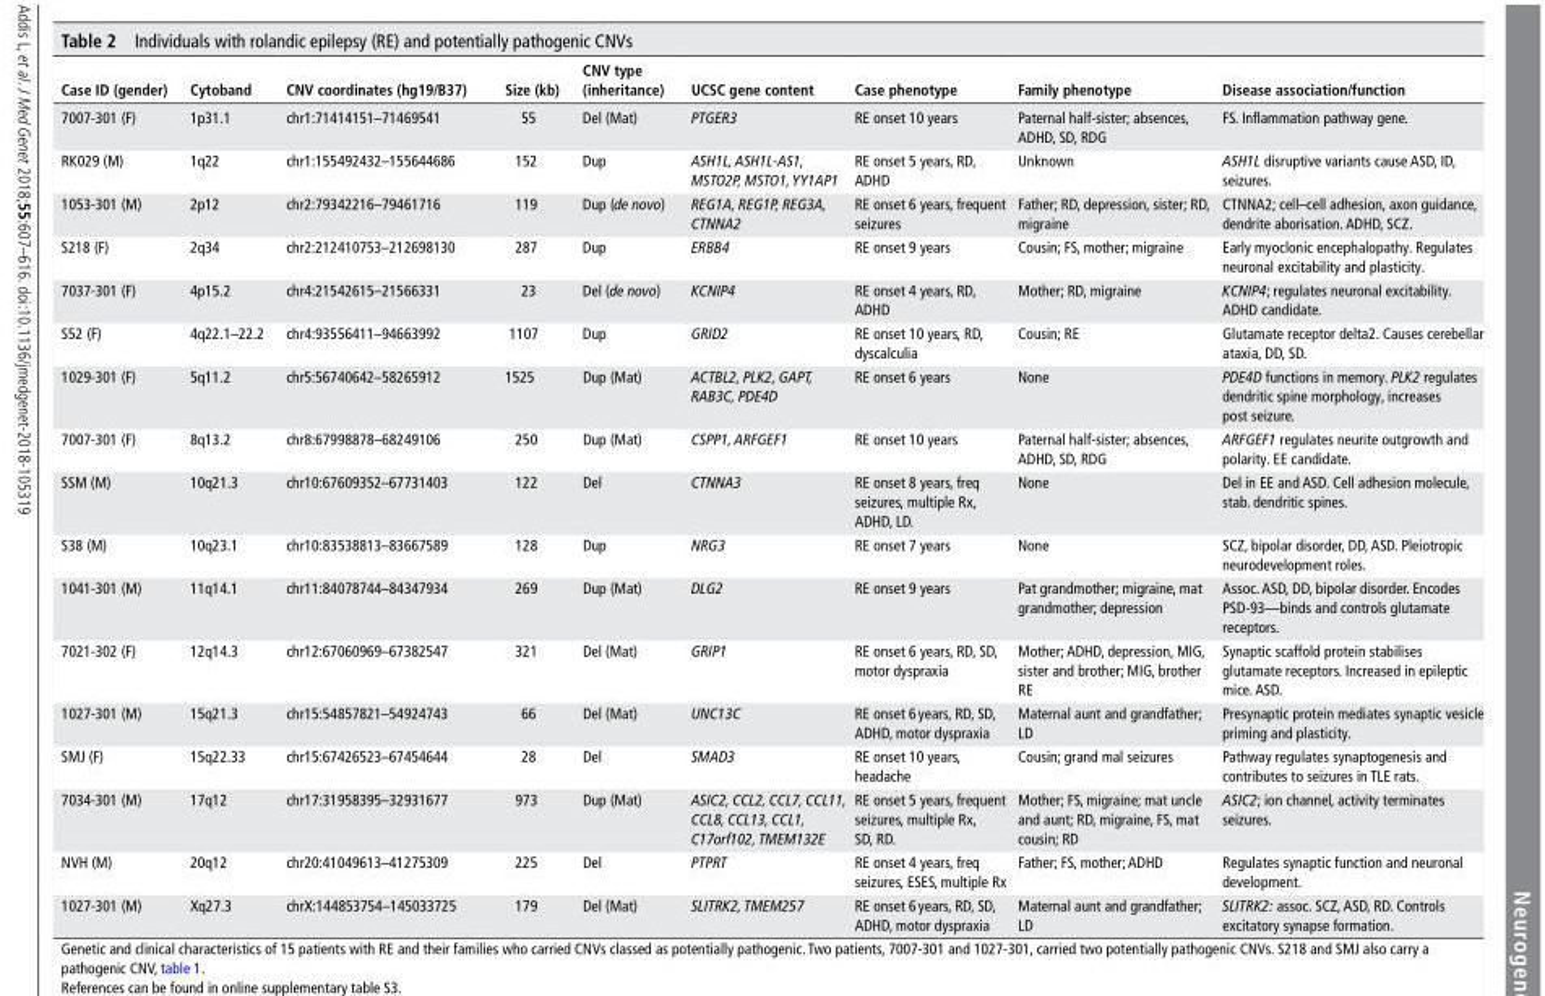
<table><thead><tr><td>Case Id (gender)</td><td>Cytoband</td><td>CNV coordinates (hg19/b37)</td><td>size (kb)</td><td>CNV type (inheritance)</td><td>uCsC gene content</td><td>Case phenotype</td><td>Family phenotype</td><td>disease association/function</td></tr></thead><tbody><tr><td>7007-301 (F)</td><td>1p31.1</td><td>chr1:71414151–71469541</td><td>55</td><td>Del (Mat)</td><td>PTGER3</td><td>RE onset 10 years</td><td>Paternal half-sister; absences, ADHD, SD, RDG</td><td>FS. Inflammation pathway gene.</td></tr><tr><td>RK029 (M)</td><td>1q22</td><td>chr1:155492432–155644686</td><td>152</td><td>Dup</td><td>ASH1L, ASH1L-AS1, MSTO2P, MSTO1, YY1AP1</td><td>RE onset 5 years, RD, ADHD</td><td>Unknown</td><td>ASH1L disruptive variants cause ASD, ID, seizures.</td></tr><tr><td>1053-301 (M)</td><td>2p12</td><td>chr2:79342216–79461716</td><td>119</td><td>Dup (de novo)</td><td>REG1A, REG1P, REG3A, CTNNA2</td><td>RE onset 6 years, frequent seizures</td><td>Father; RD, depression, sister; RD, migraine</td><td>CTNNA2; cell–cell adhesion, axon guidance, dendrite aborisation. ADHD, SCZ.</td></tr><tr><td>S218 (F)</td><td>2q34</td><td>chr2:212410753–212698130</td><td>287</td><td>Dup</td><td>ERBB4</td><td>RE onset 9 years</td><td>Cousin; FS, mother; migraine</td><td>Early myoclonic encephalopathy. Regulates neuronal excitability and plasticity.</td></tr><tr><td>7037-301 (F)</td><td>4p15.2</td><td>chr4:21542615–21566331</td><td>23</td><td>Del (de novo)</td><td>KCNIP4</td><td>RE onset 4 years, RD, ADHD</td><td>Mother; RD, migraine</td><td>KCNIP4; regulates neuronal excitability. ADHD candidate.</td></tr><tr><td>S52 (F)</td><td>4q22.1–22.2</td><td>chr4:93556411–94663992</td><td>1107</td><td>Dup</td><td>GRID2</td><td>RE onset 10 years, RD, dyscalculia</td><td>Cousin; RE</td><td>Glutamate receptor delta2. Causes cerebellar ataxia, DD, SD.</td></tr><tr><td>1029-301 (F)</td><td>5q11.2</td><td>chr5:56740642–58265912</td><td>1525</td><td>Dup (Mat)</td><td>ACTBL2, PLK2, GAPT, RAB3C, PDE4D</td><td>RE onset 6 years</td><td>None</td><td>PDE4D functions in memory. PLK2 regulates dendritic spine morphology, increases post seizure.</td></tr><tr><td>7007-301 (F)</td><td>8q13.2</td><td>chr8:67998878–68249106</td><td>250</td><td>Dup (Mat)</td><td>CSPP1, ARFGEF1</td><td>RE onset 10 years</td><td>Paternal half-sister; absences, ADHD, SD, RDG</td><td>ARFGEF1 regulates neurite outgrowth and polarity. EE candidate.</td></tr><tr><td>SSM (M)</td><td>10q21.3</td><td>chr10:67609352–67731403</td><td>122</td><td>Del</td><td>CTNNA3</td><td>RE onset 8 years, freq seizures, multiple Rx, ADHD, LD.</td><td>None</td><td>Del in EE and ASD. Cell adhesion molecule, stab. dendritic spines.</td></tr><tr><td>S38 (M)</td><td>10q23.1</td><td>chr10:83538813–83667589</td><td>128</td><td>Dup</td><td>NRG3</td><td>RE onset 7 years</td><td>None</td><td>SCZ, bipolar disorder, DD, ASD. Pleiotropic neurodevelopment roles.</td></tr><tr><td>1041-301 (M)</td><td>11q14.1</td><td>chr11:84078744–84347934</td><td>269</td><td>Dup (Mat)</td><td>DLG2</td><td>RE onset 9 years</td><td>Pat grandmother; migraine, mat grandmother; depression</td><td>Assoc. ASD, DD, bipolar disorder. Encodes PSD-93—binds and controls glutamate receptors.</td></tr><tr><td>7021-302 (F)</td><td>12q14.3</td><td>chr12:67060969–67382547</td><td>321</td><td>Del (Mat)</td><td>GRIP1</td><td>RE onset 6 years, RD, SD, motor dyspraxia</td><td>Mother; ADHD, depression, MIG, sister and brother; MIG, brother RE</td><td>Synaptic scaffold protein stabilises glutamate receptors. Increased in epileptic mice. ASD.</td></tr><tr><td>1027-301 (M)</td><td>15q21.3</td><td>chr15:54857821–54924743</td><td>66</td><td>Del (Mat)</td><td>UNC13C</td><td>RE onset 6 years, RD, SD, ADHD, motor dyspraxia</td><td>Maternal aunt and grandfather; LD</td><td>Presynaptic protein mediates synaptic vesicle priming and plasticity.</td></tr><tr><td>SMJ (F)</td><td>15q22.33</td><td>chr15:67426523–67454644</td><td>28</td><td>Del</td><td>SMAD3</td><td>RE onset 10 years, headache</td><td>Cousin; grand mal seizures</td><td>Pathway regulates synaptogenesis and contributes to seizures in TLE rats.</td></tr><tr><td>7034-301 (M)</td><td>17q12</td><td>chr17:31958395–32931677</td><td>973</td><td>Dup (Mat)</td><td>ASIC2, CCL2, CCL7, CCL11, CCL8, CCL13, CCL1, C17orf102, TMEM132E</td><td>RE onset 5 years, frequent seizures, multiple Rx, SD, RD.</td><td>Mother; FS, migraine; mat uncle and aunt; RD, migraine, FS, mat cousin; RD</td><td>ASIC2; ion channel, activity terminates seizures.</td></tr><tr><td>NVH (M)</td><td>20q12</td><td>chr20:41049613–41275309</td><td>225</td><td>Del</td><td>PTPRT</td><td>RE onset 4 years, freq seizures, ESES, multiple Rx</td><td>Father; FS, mother; ADHD</td><td>Regulates synaptic function and neuronal development.</td></tr><tr><td>1027-301 (M)</td><td>Xq27.3</td><td>chrX:144853754–145033725</td><td>179</td><td>Del (Mat)</td><td>SLITRK2, TMEM257</td><td>RE onset 6 years, RD, SD, ADHD, motor dyspraxia</td><td>Maternal aunt and grandfather; LD</td><td>SLITRK2: assoc. SCZ, ASD, RD. Controls excitatory synapse formation.</td></tr></tbody></table>